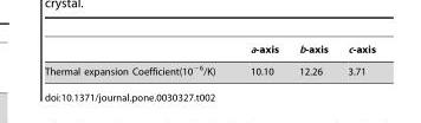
<table><thead><tr><td></td><td>a-axis</td><td>b-axis</td><td>c-axis</td></tr></thead><tbody><tr><td>Thermal expansion Coefficient(10<sup>−6</sup>/K)</td><td>10.10</td><td>12.26</td><td>3.71</td></tr></tbody></table>